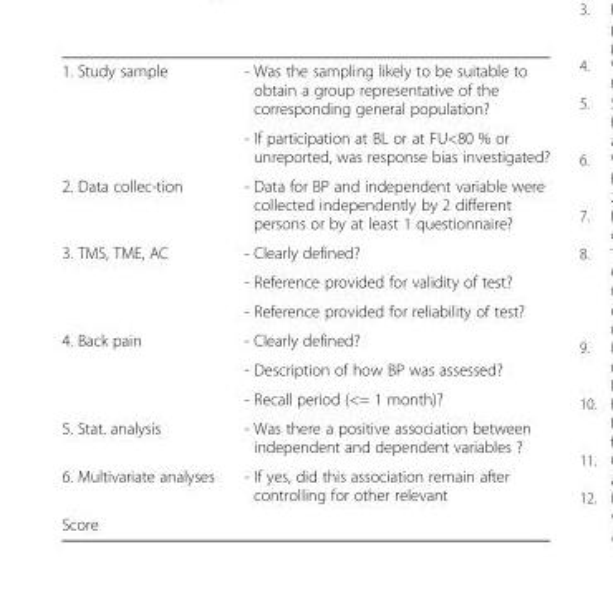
<table><tbody><tr><td rowspan="2">1. Study sample</td><td>- Was the sampling likely to be suitable to obtain a group representative of the corresponding general population?</td></tr><tr><td>- If participation at BL or at FU&lt;80 % or unreported, was response bias investigated?</td></tr><tr><td>2. Data collec-tion</td><td>- Data for BP and independent variable were collected independently by 2 different persons or by at least 1 questionnaire?</td></tr><tr><td rowspan="3">3. TMS, TME, AC</td><td>- Clearly defined?</td></tr><tr><td>- Reference provided for validity of test?</td></tr><tr><td>- Reference provided for reliability of test?</td></tr><tr><td rowspan="3">4. Back pain</td><td>- Clearly defined?</td></tr><tr><td>- Description of how BP was assessed?</td></tr><tr><td>- Recall period (&lt;= 1 month)?</td></tr><tr><td>5. Stat. analysis</td><td>- Was there a positive association between independent and dependent variables ?</td></tr><tr><td>6. Multivariate analyses</td><td>- If yes, did this association remain after controlling for other relevant</td></tr><tr><td colspan="2">Score</td></tr></tbody></table>